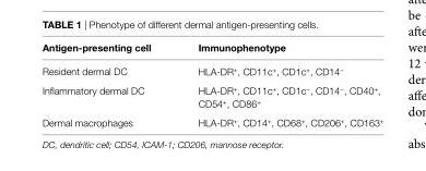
<table><thead><tr><td>antigen-presenting cell</td><td>immunophenotype</td></tr></thead><tbody><tr><td>Resident dermal DC</td><td>HLA-DR<sup>+</sup>, CD11c<sup>+</sup>, CD1c<sup>+</sup>, CD14<sup>−</sup></td></tr><tr><td>Inflammatory dermal DC</td><td>HLA-DR<sup>+</sup>, CD11c<sup>+</sup>, CD1c<sup>−</sup>, CD14<sup>−</sup>, CD40<sup>+</sup>, CD54<sup>+</sup>, CD86<sup>+</sup></td></tr><tr><td>Dermal macrophages</td><td>HLA-DR<sup>+</sup>, CD14<sup>+</sup>, CD68<sup>+</sup>, CD206<sup>+</sup>, CD163<sup>+</sup></td></tr></tbody></table>